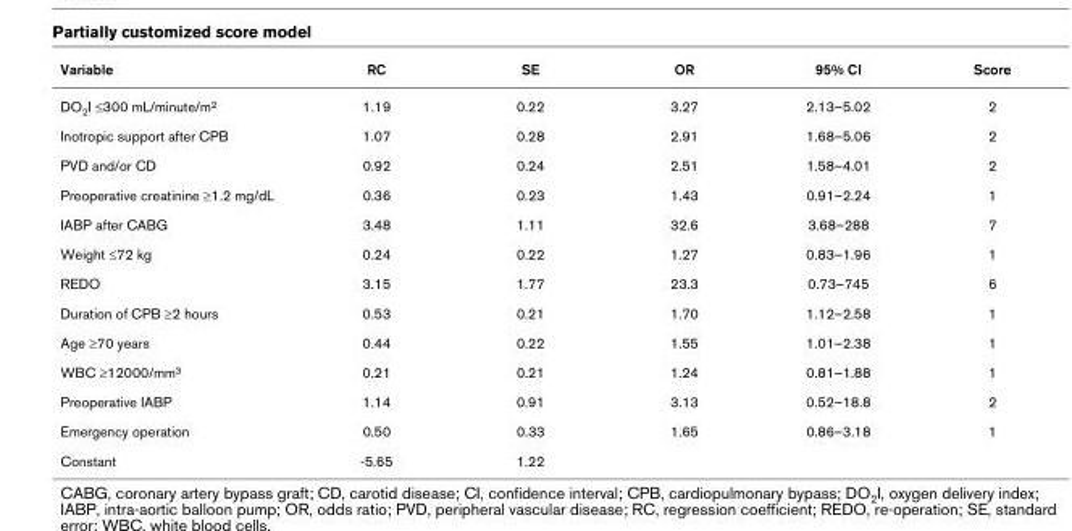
<table><thead><tr><td>Variable</td><td>RC</td><td>SE</td><td>OR</td><td>95% CI</td><td>Score</td></tr></thead><tbody><tr><td>DO2I ≤300 mL/minute/m2</td><td>1.19</td><td>0.22</td><td>3.27</td><td>2.13–5.02</td><td>2</td></tr><tr><td>Inotropic support after CPB</td><td>1.07</td><td>0.28</td><td>2.91</td><td>1.68–5.06</td><td>2</td></tr><tr><td>PVD and/or CD</td><td>0.92</td><td>0.24</td><td>2.51</td><td>1.58–4.01</td><td>2</td></tr><tr><td>Preoperative creatinine ≥1.2 mg/dL</td><td>0.36</td><td>0.23</td><td>1.43</td><td>0.91–2.24</td><td>1</td></tr><tr><td>IABP after CABG</td><td>3.48</td><td>1.11</td><td>32.6</td><td>3.68–288</td><td>7</td></tr><tr><td>Weight ≤72 kg</td><td>0.24</td><td>0.22</td><td>1.27</td><td>0.83–1.96</td><td>1</td></tr><tr><td>REDO</td><td>3.15</td><td>1.77</td><td>23.3</td><td>0.73–745</td><td>6</td></tr><tr><td>Duration of CPB ≥2 hours</td><td>0.53</td><td>0.21</td><td>1.70</td><td>1.12–2.58</td><td>1</td></tr><tr><td>Age ≥70 years</td><td>0.44</td><td>0.22</td><td>1.55</td><td>1.01–2.38</td><td>1</td></tr><tr><td>WBC ≥12000/mm3</td><td>0.21</td><td>0.21</td><td>1.24</td><td>0.81–1.88</td><td>1</td></tr><tr><td>Preoperative IABP</td><td>1.14</td><td>0.91</td><td>3.13</td><td>0.52–18.8</td><td>2</td></tr><tr><td>Emergency operation</td><td>0.50</td><td>0.33</td><td>1.65</td><td>0.86–3.18</td><td>1</td></tr><tr><td>Constant</td><td>-5.65</td><td>1.22</td><td></td><td></td><td></td></tr></tbody></table>